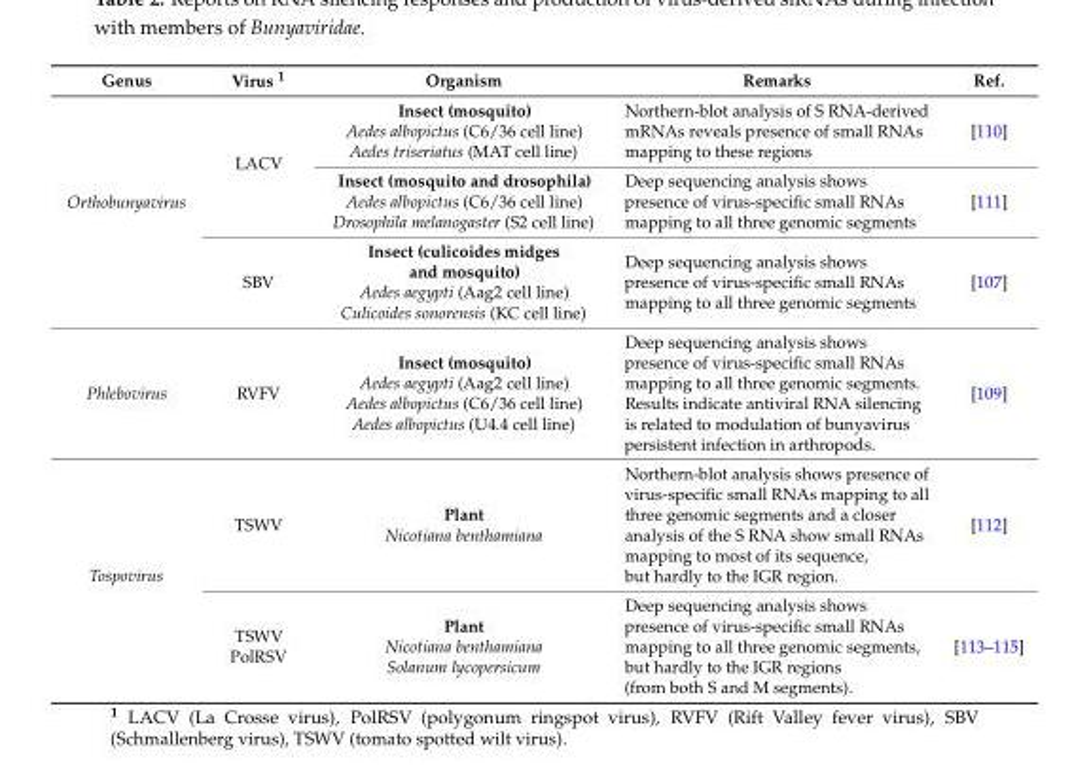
<table><thead><tr><td>Genus</td><td>Virus <sup>1</sup></td><td>Organism</td><td>Remarks</td><td>Ref.</td></tr></thead><tbody><tr><td rowspan="3">Orthobunyavirus</td><td rowspan="2">LACV</td><td>Insect (mosquito) Aedes albopictus (C6/36 cell line) Aedes triseriatus (MAT cell line)</td><td>Northern-blot analysis of S RNA-derived mRNAs reveals presence of small RNAs mapping to these regions</td><td>[110]</td></tr><tr><td>Insect (mosquito and drosophila) Aedes albopictus (C6/36 cell line) Drosophila melanogaster (S2 cell line)</td><td>Deep sequencing analysis shows presence of virus-specific small RNAs mapping to all three genomic segments</td><td>[111]</td></tr><tr><td>SBV</td><td>Insect (culicoides midges and mosquito) Aedes aegypti (Aag2 cell line) Culicoides sonorensis (KC cell line)</td><td>Deep sequencing analysis shows presence of virus-specific small RNAs mapping to all three genomic segments</td><td>[107]</td></tr><tr><td>Phlebovirus</td><td>RVFV</td><td>Insect (mosquito) Aedes aegypti (Aag2 cell line) Aedes albopictus (C6/36 cell line) Aedes albopictus (U4.4 cell line)</td><td>Deep sequencing analysis shows presence of virus-specific small RNAs mapping to all three genomic segments. Results indicate antiviral RNA silencing is related to modulation of bunyavirus persistent infection in arthropods.</td><td>[109]</td></tr><tr><td rowspan="2">Tospovirus</td><td>TSWV</td><td>Plant Nicotiana benthamiana</td><td>Northern-blot analysis shows presence of virus-specific small RNAs mapping to all three genomic segments and a closer analysis of the S RNA show small RNAs mapping to most of its sequence, but hardly to the IGR region.</td><td>[112]</td></tr><tr><td>TSWV PolRSV</td><td>Plant Nicotiana benthamiana Solanum lycopersicum</td><td>Deep sequencing analysis shows presence of virus-specific small RNAs mapping to all three genomic segments, but hardly to the IGR regions (from both S and M segments).</td><td>[113–115]</td></tr></tbody></table>